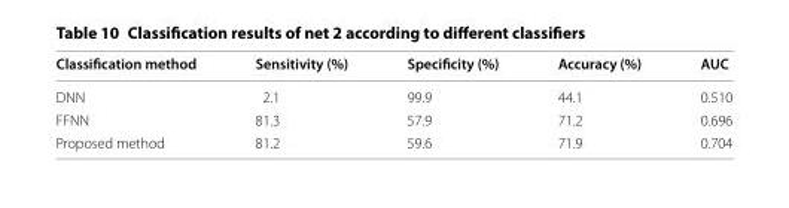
<table><thead><tr><td>Classification method</td><td>Sensitivity (%)</td><td>Specificity (%)</td><td>Accuracy (%)</td><td>AUC</td></tr></thead><tbody><tr><td>DNN</td><td>2.1</td><td>99.9</td><td>44.1</td><td>0.510</td></tr><tr><td>FFNN</td><td>81.3</td><td>57.9</td><td>71.2</td><td>0.696</td></tr><tr><td>Proposed method</td><td>81.2</td><td>59.6</td><td>71.9</td><td>0.704</td></tr></tbody></table>